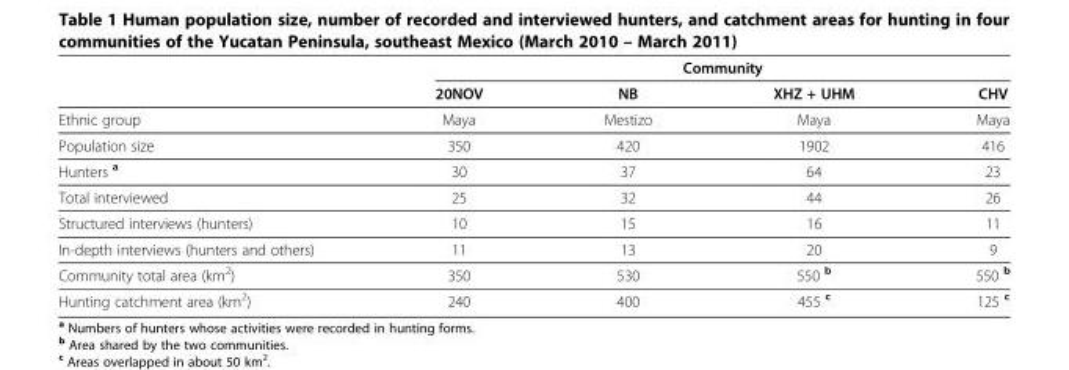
<table><thead><tr><td rowspan="2"></td><td colspan="4">Community</td></tr><tr><td>20NOV</td><td>NB</td><td>XHZ + UHM</td><td>CHV</td></tr></thead><tbody><tr><td>Ethnic group</td><td>Maya</td><td>Mestizo</td><td>Maya</td><td>Maya</td></tr><tr><td>Population size</td><td>350</td><td>420</td><td>1902</td><td>416</td></tr><tr><td>Hunters <sup>a</sup></td><td>30</td><td>37</td><td>64</td><td>23</td></tr><tr><td>Total interviewed</td><td>25</td><td>32</td><td>44</td><td>26</td></tr><tr><td>Structured interviews (hunters)</td><td>10</td><td>15</td><td>16</td><td>11</td></tr><tr><td>In-depth interviews (hunters and others)</td><td>11</td><td>13</td><td>20</td><td>9</td></tr><tr><td>Community total area (km<sup>2</sup>)</td><td>350</td><td>530</td><td>550 <sup>b</sup></td><td>550 <sup>b</sup></td></tr><tr><td>Hunting catchment area (km<sup>2</sup>)</td><td>240</td><td>400</td><td>455 <sup>c</sup></td><td>125 <sup>c</sup></td></tr></tbody></table>